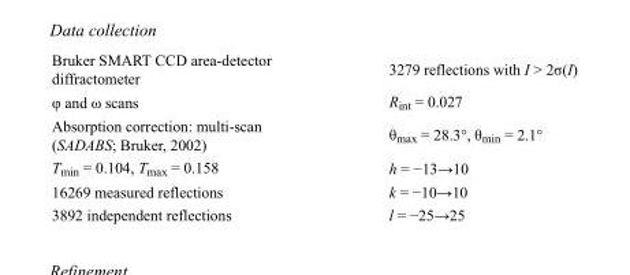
<table><tbody><tr><td>Bruker SMART CCD area-detector diffractometer</td><td>3279 reflections with I &gt; 2σ(I)</td></tr><tr><td>φ and ω scans</td><td>R<sub>int</sub> = 0.027</td></tr><tr><td>Absorption correction: multi-scan (SADABS; Bruker, 2002)</td><td>θ<sub>max</sub> = 28.3°, θ<sub>min</sub> = 2.1°</td></tr><tr><td>T<sub>min</sub> = 0.104, T<sub>max</sub> = 0.158</td><td>h = −13→10</td></tr><tr><td>16269 measured reflections</td><td>k = −10→10</td></tr><tr><td>3892 independent reflections</td><td>l = −25→25</td></tr></tbody></table>